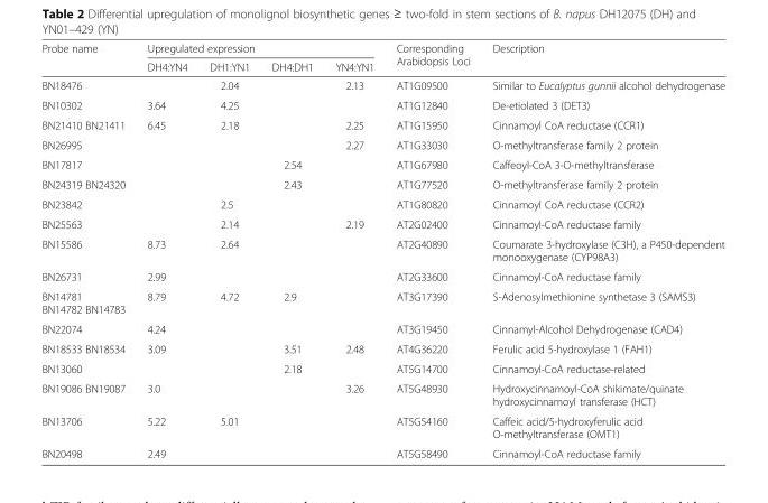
<table><thead><tr><td rowspan="2">Probe name</td><td colspan="4">Upregulated expression</td><td rowspan="2">Corresponding Arabidopsis Loci</td><td rowspan="2">Description</td></tr><tr><td>DH4:YN4</td><td>DH1:YN1</td><td>DH4:DH1</td><td>YN4:YN1</td></tr></thead><tbody><tr><td>BN18476</td><td></td><td>2.04</td><td></td><td>2.13</td><td>AT1G09500</td><td>Similar to Eucalyptus gunnii alcohol dehydrogenase</td></tr><tr><td>BN10302</td><td>3.64</td><td>4.25</td><td></td><td></td><td>AT1G12840</td><td>De-etiolated 3 (DET3)</td></tr><tr><td>BN21410 BN21411</td><td>6.45</td><td>2.18</td><td></td><td>2.25</td><td>AT1G15950</td><td>Cinnamoyl CoA reductase (CCR1)</td></tr><tr><td>BN26995</td><td></td><td></td><td></td><td>2.27</td><td>AT1G33030</td><td>O-methyltransferase family 2 protein</td></tr><tr><td>BN17817</td><td></td><td></td><td>2.54</td><td></td><td>AT1G67980</td><td>Caffeoyl-CoA 3-O-methyltransferase</td></tr><tr><td>BN24319 BN24320</td><td></td><td></td><td>2.43</td><td></td><td>AT1G77520</td><td>O-methyltransferase family 2 protein</td></tr><tr><td>BN23842</td><td></td><td>2.5</td><td></td><td></td><td>AT1G80820</td><td>Cinnamoyl CoA reductase (CCR2)</td></tr><tr><td>BN25563</td><td></td><td>2.14</td><td></td><td>2.19</td><td>AT2G02400</td><td>Cinnamoyl-CoA reductase family</td></tr><tr><td>BN15586</td><td>8.73</td><td>2.64</td><td></td><td></td><td>AT2G40890</td><td>Coumarate 3-hydroxylase (C3H), a P450-dependent monooxygenase (CYP98A3)</td></tr><tr><td>BN26731</td><td>2.99</td><td></td><td></td><td></td><td>AT2G33600</td><td>Cinnamoyl-CoA reductase family</td></tr><tr><td>BN14781 BN14782 BN14783</td><td>8.79</td><td>4.72</td><td>2.9</td><td></td><td>AT3G17390</td><td>S-Adenosylmethionine synthetase 3 (SAMS3)</td></tr><tr><td>BN22074</td><td>4.24</td><td></td><td></td><td></td><td>AT3G19450</td><td>Cinnamyl-Alcohol Dehydrogenase (CAD4)</td></tr><tr><td>BN18533 BN18534</td><td>3.09</td><td></td><td>3.51</td><td>2.48</td><td>AT4G36220</td><td>Ferulic acid 5-hydroxylase 1 (FAH1)</td></tr><tr><td>BN13060</td><td></td><td></td><td>2.18</td><td></td><td>AT5G14700</td><td>Cinnamoyl-CoA reductase-related</td></tr><tr><td>BN19086 BN19087</td><td>3.0</td><td></td><td></td><td>3.26</td><td>AT5G48930</td><td>Hydroxycinnamoyl-CoA shikimate/quinate hydroxycinnamoyl transferase (HCT)</td></tr><tr><td>BN13706</td><td>5.22</td><td>5.01</td><td></td><td></td><td>AT5G54160</td><td>Caffeic acid/5-hydroxyferulic acid O-methyltransferase (OMT1)</td></tr><tr><td>BN20498</td><td>2.49</td><td></td><td></td><td></td><td>AT5G58490</td><td>Cinnamoyl-CoA reductase family</td></tr></tbody></table>